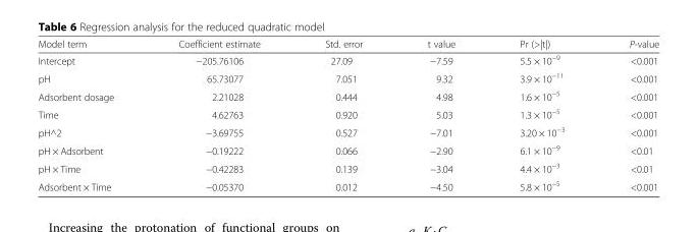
<table><thead><tr><td>Model term</td><td>Coefficient estimate</td><td>Std. error</td><td>t value</td><td>Pr (&gt;|t|)</td><td>P-value</td></tr></thead><tbody><tr><td>Intercept</td><td>−205.76106</td><td>27.09</td><td>−7.59</td><td>5.5 × 10<sup>−9</sup></td><td>&lt;0.001</td></tr><tr><td>pH</td><td>65.73077</td><td>7.051</td><td>9.32</td><td>3.9 × 10<sup>−11</sup></td><td>&lt;0.001</td></tr><tr><td>Adsorbent dosage</td><td>2.21028</td><td>0.444</td><td>4.98</td><td>1.6 × 10<sup>−5</sup></td><td>&lt;0.001</td></tr><tr><td>Time</td><td>4.62763</td><td>0.920</td><td>5.03</td><td>1.3 × 10<sup>−5</sup></td><td>&lt;0.001</td></tr><tr><td>pH^2</td><td>−3.69755</td><td>0.527</td><td>−7.01</td><td>3.20 × 10<sup>−3</sup></td><td>&lt;0.001</td></tr><tr><td>pH × Adsorbent</td><td>−0.19222</td><td>0.066</td><td>−2.90</td><td>6.1 × 10<sup>−9</sup></td><td>&lt;0.01</td></tr><tr><td>pH × Time</td><td>−0.42283</td><td>0.139</td><td>−3.04</td><td>4.4 × 10<sup>−3</sup></td><td>&lt;0.01</td></tr><tr><td>Adsorbent × Time</td><td>−0.05370</td><td>0.012</td><td>−4.50</td><td>5.8 × 10<sup>−5</sup></td><td>&lt;0.001</td></tr></tbody></table>